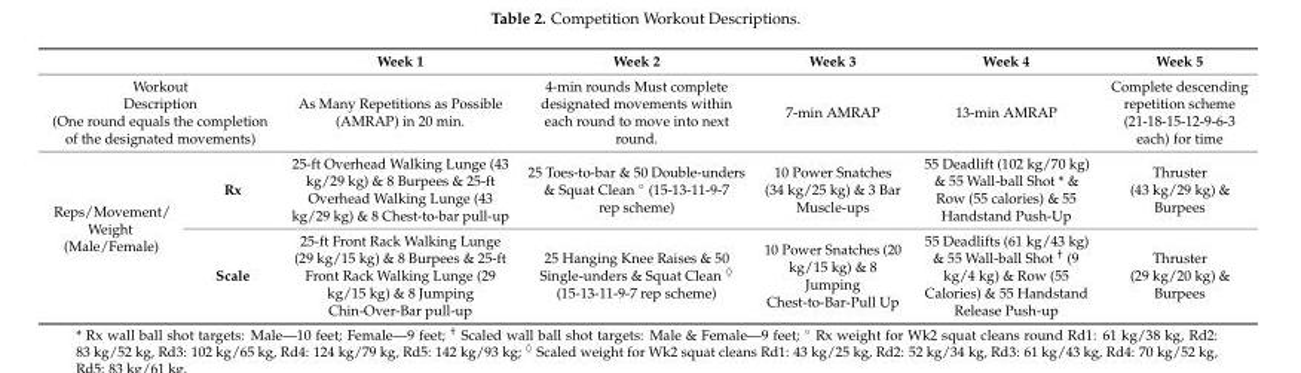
<table><thead><tr><td></td><td></td><td>Week 1</td><td>Week 2</td><td>Week 3</td><td>Week 4</td><td>Week 5</td></tr></thead><tbody><tr><td colspan="2">Workout Description (One round equals the completion of the designated movements)</td><td>As Many Repetitions as Possible (AMRAP) in 20 min.</td><td>4-min rounds Must complete designated movements within each round to move into next round.</td><td>7-min AMRAP</td><td>13-min AMRAP</td><td>Complete descending repetition scheme (21-18-15-12-9-6-3 each) for time</td></tr><tr><td rowspan="2">Reps/Movement/ Weight (Male/Female)</td><td>Rx</td><td>25-ft Overhead Walking Lunge (43 kg/29 kg) &amp; 8 Burpees &amp; 25-ft Overhead Walking Lunge (43 kg/29 kg) &amp; 8 Chest-to-bar pull-up</td><td>25 Toes-to-bar &amp; 50 Double-unders &amp; Squat Clean ◦ (15-13-11-9-7 rep scheme)</td><td>10 Power Snatches (34 kg/25 kg) &amp; 3 Bar Muscle-ups</td><td>55 Deadlift (102 kg/70 kg) &amp; 55 Wall-ball Shot * &amp; Row (55 calories) &amp; 55 Handstand Push-Up</td><td>Thruster (43 kg/29 kg) &amp; Burpees</td></tr><tr><td>Scale</td><td>25-ft Front Rack Walking Lunge (29 kg/15 kg) &amp; 8 Burpees &amp; 25-ft Front Rack Walking Lunge (29 kg/15 kg) &amp; 8 Jumping Chin-Over-Bar pull-up</td><td>25 Hanging Knee Raises &amp; 50 Single-unders &amp; Squat Clean ♦ (15-13-11-9-7 rep scheme)</td><td>10 Power Snatches (20 kg/15 kg) &amp; 8 Jumping Chest-to-Bar-Pull Up</td><td>55 Deadlifts (61 kg/43 kg) &amp; 55 Wall-ball Shot <sup>†</sup> (9 kg/4 kg) &amp; Row (55 Calories) &amp; 55 Handstand Release Push-up</td><td>Thruster (29 kg/20 kg) &amp; Burpees</td></tr></tbody></table>